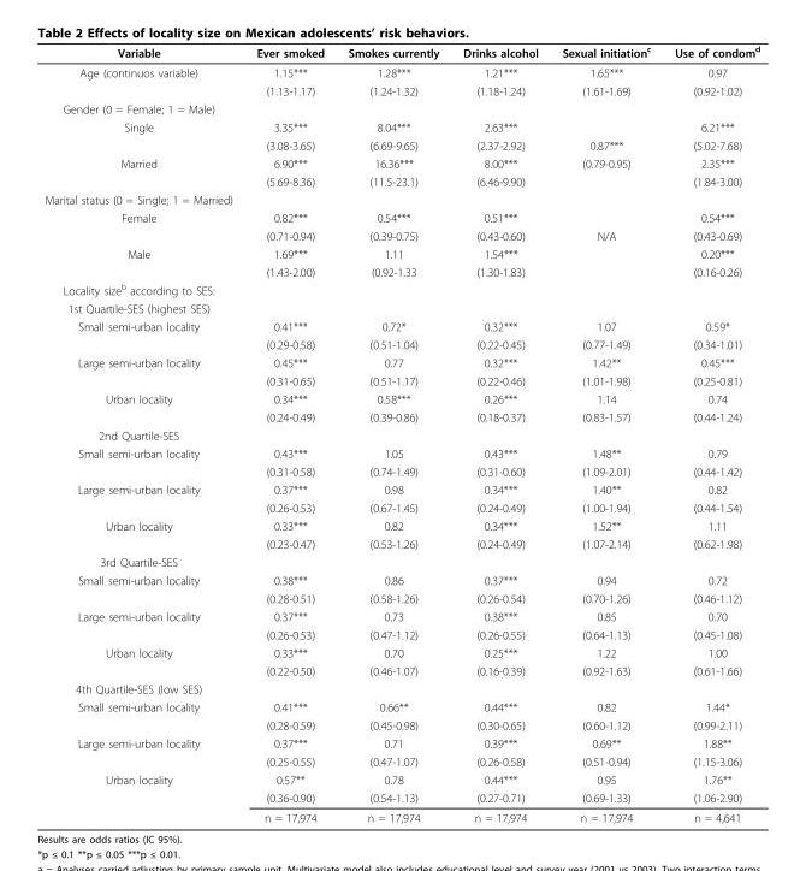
<table><thead><tr><td>Variable</td><td>Ever smoked</td><td>Smokes currently</td><td>Drinks alcohol</td><td>Sexual initiation<sup>c</sup></td><td>Use of condom<sup>d</sup></td></tr></thead><tbody><tr><td rowspan="2">Age (continuos variable)</td><td>1.15***</td><td>1.28***</td><td>1.21***</td><td>1.65***</td><td>0.97</td></tr><tr><td>(1.13-1.17)</td><td>(1.24-1.32)</td><td>(1.18-1.24)</td><td>(1.61-1.69)</td><td>(0.92-1.02)</td></tr><tr><td colspan="6">Gender (0 = Female; 1 = Male)</td></tr><tr><td rowspan="2">Single</td><td>3.35***</td><td>8.04***</td><td>2.63***</td><td></td><td>6.21***</td></tr><tr><td>(3.08-3.65)</td><td>(6.69-9.65)</td><td>(2.37-2.92)</td><td>0.87***</td><td>(5.02-7.68)</td></tr><tr><td rowspan="2">Married</td><td>6.90***</td><td>16.36***</td><td>8.00***</td><td>(0.79-0.95)</td><td>2.35***</td></tr><tr><td>(5.69-8.36)</td><td>(11.5-23.1)</td><td>(6.46-9.90)</td><td></td><td>(1.84-3.00)</td></tr><tr><td colspan="6">Marital status (0 = Single; 1 = Married)</td></tr><tr><td rowspan="2">Female</td><td>0.82***</td><td>0.54***</td><td>0.51***</td><td></td><td>0.54***</td></tr><tr><td>(0.71-0.94)</td><td>(0.39-0.75)</td><td>(0.43-0.60)</td><td>N/A</td><td>(0.43-0.69)</td></tr><tr><td rowspan="2">Male</td><td>1.69***</td><td>1.11</td><td>1.54***</td><td></td><td>0.20***</td></tr><tr><td>(1.43-2.00)</td><td>(0.92-1.33</td><td>(1.30-1.83)</td><td></td><td>(0.16-0.26)</td></tr><tr><td colspan="6">Locality size<sup>b</sup> according to SES:</td></tr><tr><td colspan="6">1st Quartile-SES (highest SES)</td></tr><tr><td rowspan="2">Small semi-urban locality</td><td>0.41***</td><td>0.72*</td><td>0.32***</td><td>1.07</td><td>0.59*</td></tr><tr><td>(0.29-0.58)</td><td>(0.51-1.04)</td><td>(0.22-0.45)</td><td>(0.77-1.49)</td><td>(0.34-1.01)</td></tr><tr><td rowspan="2">Large semi-urban locality</td><td>0.45***</td><td>0.77</td><td>0.32***</td><td>1.42**</td><td>0.45***</td></tr><tr><td>(0.31-0.65)</td><td>(0.51-1.17)</td><td>(0.22-0.46)</td><td>(1.01-1.98)</td><td>(0.25-0.81)</td></tr><tr><td rowspan="2">Urban locality</td><td>0.34***</td><td>0.58***</td><td>0.26***</td><td>1.14</td><td>0.74</td></tr><tr><td>(0.24-0.49)</td><td>(0.39-0.86)</td><td>(0.18-0.37)</td><td>(0.83-1.57)</td><td>(0.44-1.24)</td></tr><tr><td colspan="6">2nd Quartile-SES</td></tr><tr><td rowspan="2">Small semi-urban locality</td><td>0.43***</td><td>1.05</td><td>0.43***</td><td>1.48**</td><td>0.79</td></tr><tr><td>(0.31-0.58)</td><td>(0.74-1.49)</td><td>(0.31-0.60)</td><td>(1.09-2.01)</td><td>(0.44-1.42)</td></tr><tr><td rowspan="2">Large semi-urban locality</td><td>0.37***</td><td>0.98</td><td>0.34***</td><td>1.40**</td><td>0.82</td></tr><tr><td>(0.26-0.53)</td><td>(0.67-1.45)</td><td>(0.24-0.49)</td><td>(1.00-1.94)</td><td>(0.44-1.54)</td></tr><tr><td rowspan="2">Urban locality</td><td>0.33***</td><td>0.82</td><td>0.34***</td><td>1.52**</td><td>1.11</td></tr><tr><td>(0.23-0.47)</td><td>(0.53-1.26)</td><td>(0.24-0.49)</td><td>(1.07-2.14)</td><td>(0.62-1.98)</td></tr><tr><td colspan="6">3rd Quartile-SES</td></tr><tr><td rowspan="2">Small semi-urban locality</td><td>0.38***</td><td>0.86</td><td>0.37***</td><td>0.94</td><td>0.72</td></tr><tr><td>(0.28-0.51)</td><td>(0.58-1.26)</td><td>(0.26-0.54)</td><td>(0.70-1.26)</td><td>(0.46-1.12)</td></tr><tr><td rowspan="2">Large semi-urban locality</td><td>0.37***</td><td>0.73</td><td>0.38***</td><td>0.85</td><td>0.70</td></tr><tr><td>(0.26-0.53)</td><td>(0.47-1.12)</td><td>(0.26-0.55)</td><td>(0.64-1.13)</td><td>(0.45-1.08)</td></tr><tr><td rowspan="2">Urban locality</td><td>0.33***</td><td>0.70</td><td>0.25***</td><td>1.22</td><td>1.00</td></tr><tr><td>(0.22-0.50)</td><td>(0.46-1.07)</td><td>(0.16-0.39)</td><td>(0.92-1.63)</td><td>(0.61-1.66)</td></tr><tr><td colspan="6">4th Quartile-SES (low SES)</td></tr><tr><td rowspan="2">Small semi-urban locality</td><td>0.41***</td><td>0.66**</td><td>0.44***</td><td>0.82</td><td>1.44*</td></tr><tr><td>(0.28-0.59)</td><td>(0.45-0.98)</td><td>(0.30-0.65)</td><td>(0.60-1.12)</td><td>(0.99-2.11)</td></tr><tr><td rowspan="2">Large semi-urban locality</td><td>0.37***</td><td>0.71</td><td>0.39***</td><td>0.69**</td><td>1.88**</td></tr><tr><td>(0.25-0.55)</td><td>(0.47-1.07)</td><td>(0.26-0.58)</td><td>(0.51-0.94)</td><td>(1.15-3.06)</td></tr><tr><td rowspan="3">Urban locality</td><td>0.57**</td><td>0.78</td><td>0.44***</td><td>0.95</td><td>1.76**</td></tr><tr><td>(0.36-0.90)</td><td>(0.54-1.13)</td><td>(0.27-0.71)</td><td>(0.69-1.33)</td><td>(1.06-2.90)</td></tr><tr><td>n = 17,974</td><td>n = 17,974</td><td>n = 17,974</td><td>n = 17,974</td><td>n = 4,641</td></tr></tbody></table>